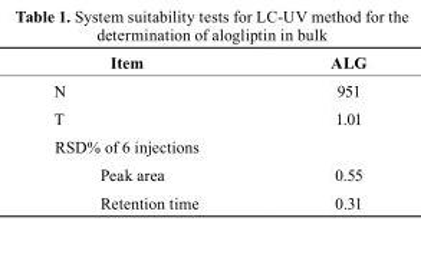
<table><thead><tr><td>Item</td><td>ALG</td></tr></thead><tbody><tr><td>N</td><td>951</td></tr><tr><td>T</td><td>1.01</td></tr><tr><td colspan="2">RSD% of 6 injections</td></tr><tr><td>Peak area</td><td>0.55</td></tr><tr><td>Retention time</td><td>0.31</td></tr></tbody></table>